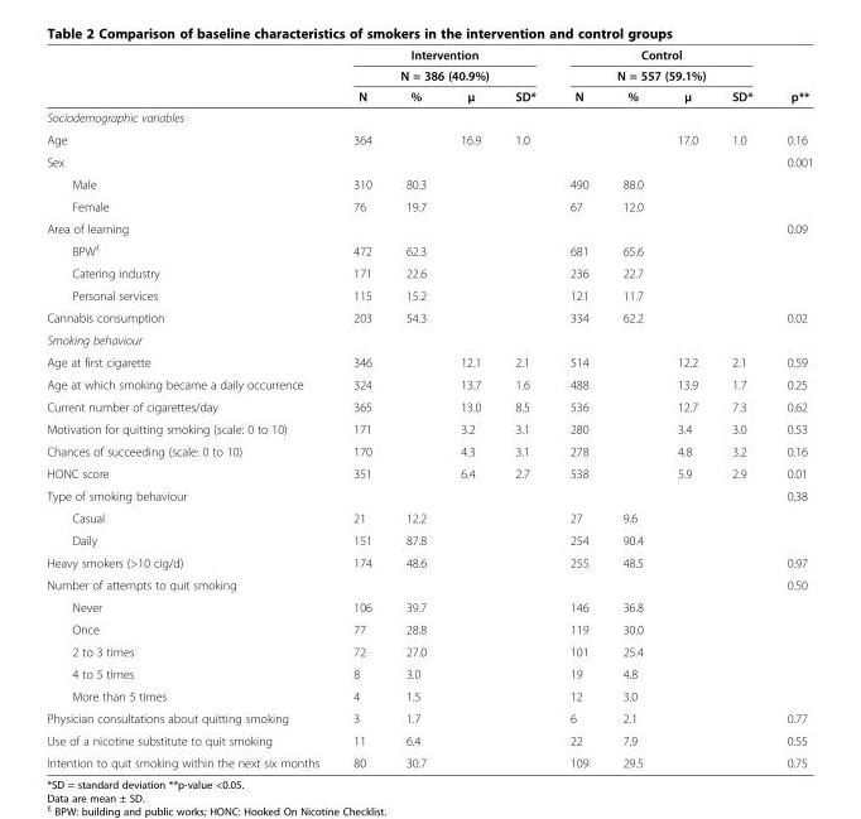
<table><thead><tr><td rowspan="3"></td><td rowspan="2" colspan="4">Intervention N = 386 (40.9%)</td><td rowspan="2" colspan="4">Control N = 557 (59.1%)</td><td rowspan="3">p**</td></tr><tr></tr><tr><td>N</td><td>%</td><td>μ</td><td>SD*</td><td>N</td><td>%</td><td>μ</td><td>SD*</td></tr></thead><tbody><tr><td colspan="10">Sociodemographic variables</td></tr><tr><td>Age</td><td>364</td><td></td><td>16.9</td><td>1.0</td><td></td><td></td><td>17.0</td><td>1.0</td><td>0.16</td></tr><tr><td colspan="9">Sex</td><td>0.001</td></tr><tr><td>Male</td><td>310</td><td>80.3</td><td></td><td></td><td>490</td><td>88.0</td><td></td><td></td><td></td></tr><tr><td>Female</td><td>76</td><td>19.7</td><td></td><td></td><td>67</td><td>12.0</td><td></td><td></td><td></td></tr><tr><td colspan="9">Area of learning</td><td>0.09</td></tr><tr><td>BPW<sup>£</sup></td><td>472</td><td>62.3</td><td></td><td></td><td>681</td><td>65.6</td><td></td><td></td><td></td></tr><tr><td>Catering industry</td><td>171</td><td>22.6</td><td></td><td></td><td>236</td><td>22.7</td><td></td><td></td><td></td></tr><tr><td>Personal services</td><td>115</td><td>15.2</td><td></td><td></td><td>121</td><td>11.7</td><td></td><td></td><td></td></tr><tr><td>Cannabis consumption</td><td>203</td><td>54.3</td><td></td><td></td><td>334</td><td>62.2</td><td></td><td></td><td>0.02</td></tr><tr><td colspan="10">Smoking behaviour</td></tr><tr><td>Age at first cigarette</td><td>346</td><td></td><td>12.1</td><td>2.1</td><td>514</td><td></td><td>12.2</td><td>2.1</td><td>0.59</td></tr><tr><td>Age at which smoking became a daily occurrence</td><td>324</td><td></td><td>13.7</td><td>1.6</td><td>488</td><td></td><td>13.9</td><td>1.7</td><td>0.25</td></tr><tr><td>Current number of cigarettes/day</td><td>365</td><td></td><td>13.0</td><td>8.5</td><td>536</td><td></td><td>12.7</td><td>7.3</td><td>0.62</td></tr><tr><td>Motivation for quitting smoking (scale: 0 to 10)</td><td>171</td><td></td><td>3.2</td><td>3.1</td><td>280</td><td></td><td>3.4</td><td>3.0</td><td>0.53</td></tr><tr><td>Chances of succeeding (scale: 0 to 10)</td><td>170</td><td></td><td>4.3</td><td>3.1</td><td>278</td><td></td><td>4.8</td><td>3.2</td><td>0.16</td></tr><tr><td>HONC score</td><td>351</td><td></td><td>6.4</td><td>2.7</td><td>538</td><td></td><td>5.9</td><td>2.9</td><td>0.01</td></tr><tr><td>Type of smoking behaviour</td><td></td><td></td><td></td><td></td><td></td><td></td><td></td><td></td><td>0,38</td></tr><tr><td>Casual</td><td>21</td><td>12.2</td><td></td><td></td><td>27</td><td>9.6</td><td></td><td></td><td></td></tr><tr><td>Daily</td><td>151</td><td>87.8</td><td></td><td></td><td>254</td><td>90.4</td><td></td><td></td><td></td></tr><tr><td>Heavy smokers (&gt;10 cig/d)</td><td>174</td><td>48.6</td><td></td><td></td><td>255</td><td>48.5</td><td></td><td></td><td>0.97</td></tr><tr><td colspan="9">Number of attempts to quit smoking</td><td>0.50</td></tr><tr><td>Never</td><td>106</td><td>39.7</td><td></td><td></td><td>146</td><td>36.8</td><td></td><td></td><td></td></tr><tr><td>Once</td><td>77</td><td>28.8</td><td></td><td></td><td>119</td><td>30.0</td><td></td><td></td><td></td></tr><tr><td>2 to 3 times</td><td>72</td><td>27.0</td><td></td><td></td><td>101</td><td>25.4</td><td></td><td></td><td></td></tr><tr><td>4 to 5 times</td><td>8</td><td>3.0</td><td></td><td></td><td>19</td><td>4.8</td><td></td><td></td><td></td></tr><tr><td>More than 5 times</td><td>4</td><td>1.5</td><td></td><td></td><td>12</td><td>3.0</td><td></td><td></td><td></td></tr><tr><td>Physician consultations about quitting smoking</td><td>3</td><td>1.7</td><td></td><td></td><td>6</td><td>2.1</td><td></td><td></td><td>0.77</td></tr><tr><td>Use of a nicotine substitute to quit smoking</td><td>11</td><td>6.4</td><td></td><td></td><td>22</td><td>7.9</td><td></td><td></td><td>0.55</td></tr><tr><td>Intention to quit smoking within the next six months</td><td>80</td><td>30.7</td><td></td><td></td><td>109</td><td>29.5</td><td></td><td></td><td>0.75</td></tr></tbody></table>